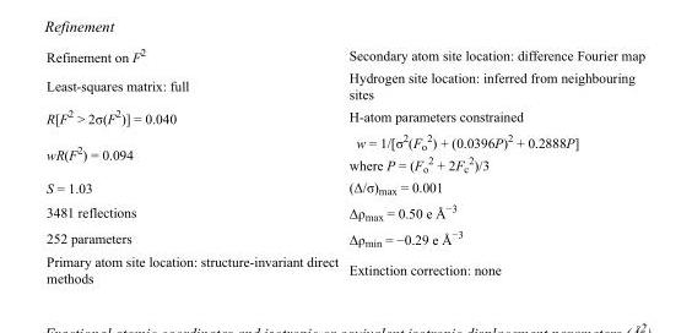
<table><tbody><tr><td>Refinement on F<sup>2</sup></td><td>Secondary atom site location: difference Fourier map</td></tr><tr><td>Least-squares matrix: full</td><td>Hydrogen site location: inferred from neighbouring sites</td></tr><tr><td>R[F<sup>2</sup> &gt; 2σ(F<sup>2</sup>)] = 0.040</td><td>H-atom parameters constrained</td></tr><tr><td>wR(F<sup>2</sup>) = 0.094</td><td>w = 1/[σ<sup>2</sup>(F<sub>o</sub> <sup>2</sup>) + (0.0396P)<sup>2</sup> + 0.2888P] where P = (F<sub>o</sub> <sup>2</sup> + 2F<sub>c</sub> <sup>2</sup>)/3</td></tr><tr><td>S = 1.03</td><td>(Δ/σ)<sub>max</sub> = 0.001</td></tr><tr><td>3481 reflections</td><td>Δρ<sub>max</sub> = 0.50 e Å<sup>−3</sup></td></tr><tr><td>252 parameters</td><td>Δρ<sub>min</sub> = −0.29 e Å<sup>−3</sup></td></tr><tr><td>Primary atom site location: structure-invariant direct methods</td><td>Extinction correction: none</td></tr></tbody></table>